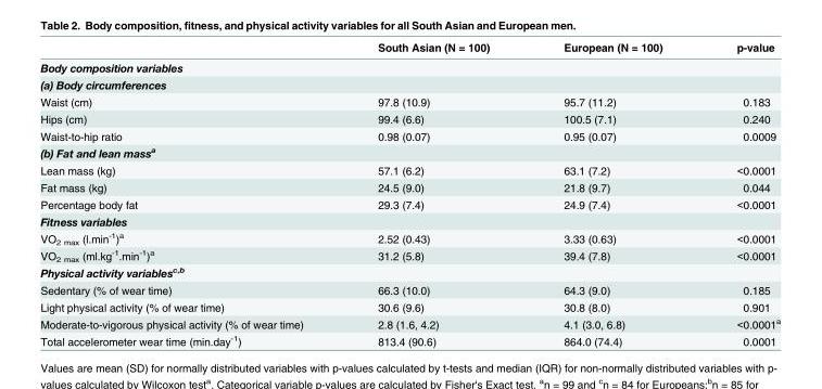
<table><thead><tr><td></td><td>South Asian (N = 100)</td><td>European (N = 100)</td><td>p-value</td></tr></thead><tbody><tr><td colspan="4">Body composition variables</td></tr><tr><td colspan="4">(a) Body circumferences</td></tr><tr><td>Waist (cm)</td><td>97.8 (10.9)</td><td>95.7 (11.2)</td><td>0.183</td></tr><tr><td>Hips (cm)</td><td>99.4 (6.6)</td><td>100.5 (7.1)</td><td>0.240</td></tr><tr><td>Waist-to-hip ratio</td><td>0.98 (0.07)</td><td>0.95 (0.07)</td><td>0.0009</td></tr><tr><td colspan="4">(b) Fat and lean mass<sup>a</sup></td></tr><tr><td>Lean mass (kg)</td><td>57.1 (6.2)</td><td>63.1 (7.2)</td><td>&lt;0.0001</td></tr><tr><td>Fat mass (kg)</td><td>24.5 (9.0)</td><td>21.8 (9.7)</td><td>0.044</td></tr><tr><td>Percentage body fat</td><td>29.3 (7.4)</td><td>24.9 (7.4)</td><td>&lt;0.0001</td></tr><tr><td colspan="4">Fitness variables</td></tr><tr><td>VO<sub>2 max</sub> (l.min<sup>-1</sup>)<sup>a</sup></td><td>2.52 (0.43)</td><td>3.33 (0.63)</td><td>&lt;0.0001</td></tr><tr><td>VO<sub>2 max</sub> (ml.kg<sup>-1</sup>.min<sup>-1</sup>)<sup>a</sup></td><td>31.2 (5.8)</td><td>39.4 (7.8)</td><td>&lt;0.0001</td></tr><tr><td colspan="4">Physical activity variables<sup>c,b</sup></td></tr><tr><td>Sedentary (% of wear time)</td><td>66.3 (10.0)</td><td>64.3 (9.0)</td><td>0.185</td></tr><tr><td>Light physical activity (% of wear time)</td><td>30.6 (9.6)</td><td>30.8 (8.0)</td><td>0.901</td></tr><tr><td>Moderate-to-vigorous physical activity (% of wear time)</td><td>2.8 (1.6, 4.2)</td><td>4.1 (3.0, 6.8)</td><td>&lt;0.0001<sup>a</sup></td></tr><tr><td>Total accelerometer wear time (min.day<sup>-1</sup>)</td><td>813.4 (90.6)</td><td>864.0 (74.4)</td><td>0.0001</td></tr></tbody></table>